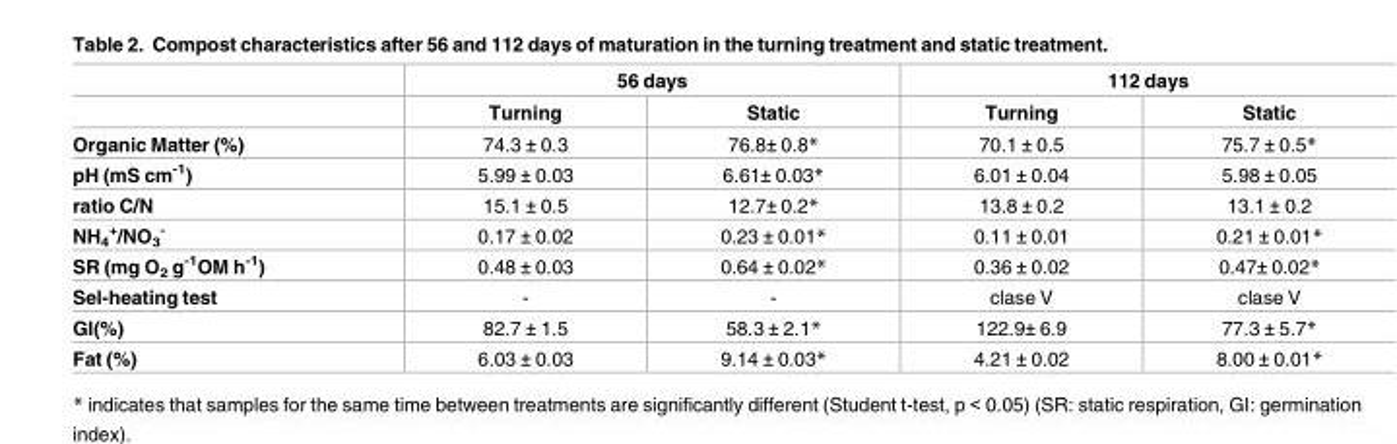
<table><thead><tr><td rowspan="2"></td><td colspan="2">56 days</td><td colspan="2">112 days</td></tr><tr><td>Turning</td><td>Static</td><td>Turning</td><td>Static</td></tr></thead><tbody><tr><td>Organic Matter (%)</td><td>74.3 ± 0.3</td><td>76.8± 0.8*</td><td>70.1 ± 0.5</td><td>75.7 ± 0.5*</td></tr><tr><td>pH (mS cm<sup>-1</sup>)</td><td>5.99 ± 0.03</td><td>6.61± 0.03*</td><td>6.01 ± 0.04</td><td>5.98 ± 0.05</td></tr><tr><td>ratio C/N</td><td>15.1 ± 0.5</td><td>12.7± 0.2*</td><td>13.8 ± 0.2</td><td>13.1 ± 0.2</td></tr><tr><td>NH<sub>4</sub> <sup>+</sup>/NO<sub>3</sub> <sup>-</sup></td><td>0.17 ± 0.02</td><td>0.23 ± 0.01*</td><td>0.11 ± 0.01</td><td>0.21 ± 0.01*</td></tr><tr><td>SR (mg O<sub>2</sub> g<sup>-1</sup>OM h<sup>-1</sup>)</td><td>0.48 ± 0.03</td><td>0.64 ± 0.02*</td><td>0.36 ± 0.02</td><td>0.47± 0.02*</td></tr><tr><td>Sel-heating test</td><td>-</td><td>-</td><td>clase V</td><td>clase V</td></tr><tr><td>GI(%)</td><td>82.7 ± 1.5</td><td>58.3 ± 2.1*</td><td>122.9± 6.9</td><td>77.3 ± 5.7*</td></tr><tr><td>Fat (%)</td><td>6.03 ± 0.03</td><td>9.14 ± 0.03*</td><td>4.21 ± 0.02</td><td>8.00 ± 0.01*</td></tr></tbody></table>